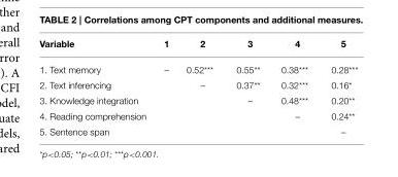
<table><thead><tr><td>Variable</td><td>1</td><td>2</td><td>3</td><td>4</td><td>5</td></tr></thead><tbody><tr><td>1. Text memory</td><td>–</td><td>0.52***</td><td>0.55**</td><td>0.38***</td><td>0.28***</td></tr><tr><td>2. Text inferencing</td><td></td><td>–</td><td>0.37**</td><td>0.32***</td><td>0.16*</td></tr><tr><td>3. Knowledge integration</td><td></td><td></td><td>–</td><td>0.48***</td><td>0.20**</td></tr><tr><td>4. Reading comprehension</td><td></td><td></td><td></td><td>–</td><td>0.24**</td></tr><tr><td>5. Sentence span</td><td></td><td></td><td></td><td></td><td>–</td></tr></tbody></table>